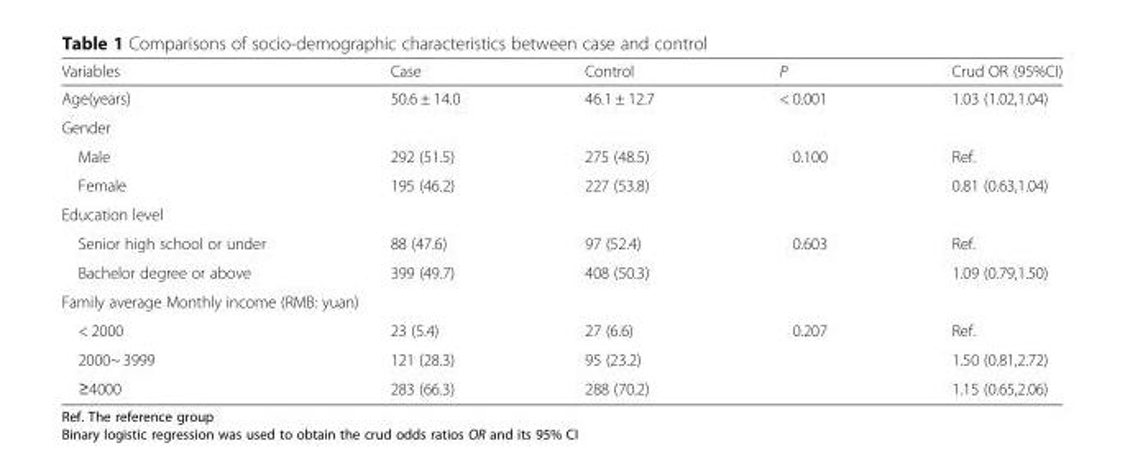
<table><thead><tr><td>Variables</td><td>Case</td><td>Control</td><td>P</td><td>Crud OR (95%CI)</td></tr></thead><tbody><tr><td>Age(years)</td><td>50.6 ± 14.0</td><td>46.1 ± 12.7</td><td>&lt; 0.001</td><td>1.03 (1.02,1.04)</td></tr><tr><td colspan="5">Gender</td></tr><tr><td>Male</td><td>292 (51.5)</td><td>275 (48.5)</td><td rowspan="2">0.100</td><td>Ref.</td></tr><tr><td>Female</td><td>195 (46.2)</td><td>227 (53.8)</td><td>0.81 (0.63,1.04)</td></tr><tr><td colspan="5">Education level</td></tr><tr><td>Senior high school or under</td><td>88 (47.6)</td><td>97 (52.4)</td><td rowspan="2">0.603</td><td>Ref.</td></tr><tr><td>Bachelor degree or above</td><td>399 (49.7)</td><td>408 (50.3)</td><td>1.09 (0.79,1.50)</td></tr><tr><td colspan="5">Family average Monthly income (RMB: yuan)</td></tr><tr><td>&lt; 2000</td><td>23 (5.4)</td><td>27 (6.6)</td><td rowspan="3">0.207</td><td>Ref.</td></tr><tr><td>2000~ 3999</td><td>121 (28.3)</td><td>95 (23.2)</td><td>1.50 (0.81,2.72)</td></tr><tr><td>≥4000</td><td>283 (66.3)</td><td>288 (70.2)</td><td>1.15 (0.65,2.06)</td></tr></tbody></table>